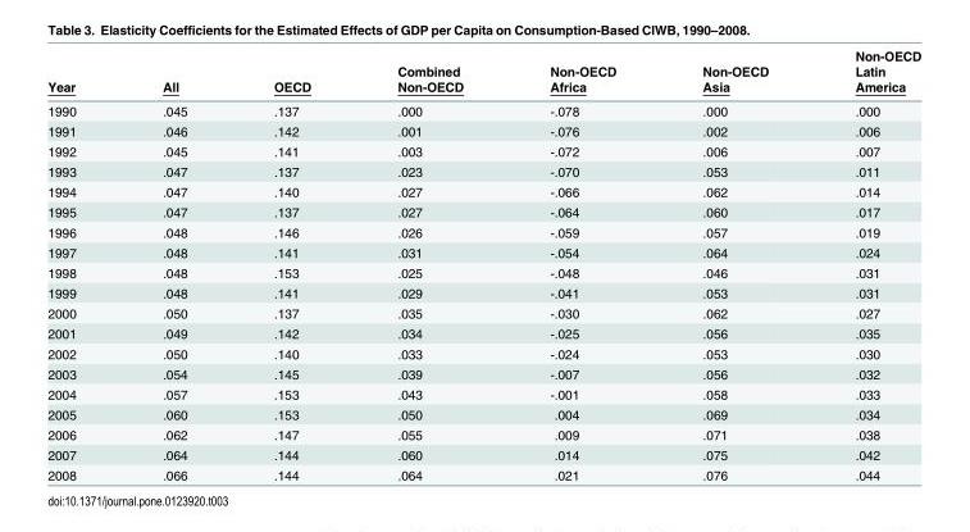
<table><thead><tr><td rowspan="3">Year</td><td rowspan="3">All</td><td rowspan="3">OECD</td><td rowspan="3">Combined Non-OECD</td><td rowspan="3">Non-OECD Africa</td><td rowspan="3">Non-OECD Asia</td><td rowspan="3">Non-OECD Latin America</td></tr><tr></tr><tr></tr></thead><tbody><tr><td>1990</td><td>.045</td><td>.137</td><td>.000</td><td>-.078</td><td>.000</td><td>.000</td></tr><tr><td>1991</td><td>.046</td><td>.142</td><td>.001</td><td>-.076</td><td>.002</td><td>.006</td></tr><tr><td>1992</td><td>.045</td><td>.141</td><td>.003</td><td>-.072</td><td>.006</td><td>.007</td></tr><tr><td>1993</td><td>.047</td><td>.137</td><td>.023</td><td>-.070</td><td>.053</td><td>.011</td></tr><tr><td>1994</td><td>.047</td><td>.140</td><td>.027</td><td>-.066</td><td>.062</td><td>.014</td></tr><tr><td>1995</td><td>.047</td><td>.137</td><td>.027</td><td>-.064</td><td>.060</td><td>.017</td></tr><tr><td>1996</td><td>.048</td><td>.146</td><td>.026</td><td>-.059</td><td>.057</td><td>.019</td></tr><tr><td>1997</td><td>.048</td><td>.141</td><td>.031</td><td>-.054</td><td>.064</td><td>.024</td></tr><tr><td>1998</td><td>.048</td><td>.153</td><td>.025</td><td>-.048</td><td>.046</td><td>.031</td></tr><tr><td>1999</td><td>.048</td><td>.141</td><td>.029</td><td>-.041</td><td>.053</td><td>.031</td></tr><tr><td>2000</td><td>.050</td><td>.137</td><td>.035</td><td>-.030</td><td>.062</td><td>.027</td></tr><tr><td>2001</td><td>.049</td><td>.142</td><td>.034</td><td>-.025</td><td>.056</td><td>.035</td></tr><tr><td>2002</td><td>.050</td><td>.140</td><td>.033</td><td>-.024</td><td>.053</td><td>.030</td></tr><tr><td>2003</td><td>.054</td><td>.145</td><td>.039</td><td>-.007</td><td>.056</td><td>.032</td></tr><tr><td>2004</td><td>.057</td><td>.153</td><td>.043</td><td>-.001</td><td>.058</td><td>.033</td></tr><tr><td>2005</td><td>.060</td><td>.153</td><td>.050</td><td>.004</td><td>.069</td><td>.034</td></tr><tr><td>2006</td><td>.062</td><td>.147</td><td>.055</td><td>.009</td><td>.071</td><td>.038</td></tr><tr><td>2007</td><td>.064</td><td>.144</td><td>.060</td><td>.014</td><td>.075</td><td>.042</td></tr><tr><td>2008</td><td>.066</td><td>.144</td><td>.064</td><td>.021</td><td>.076</td><td>.044</td></tr></tbody></table>